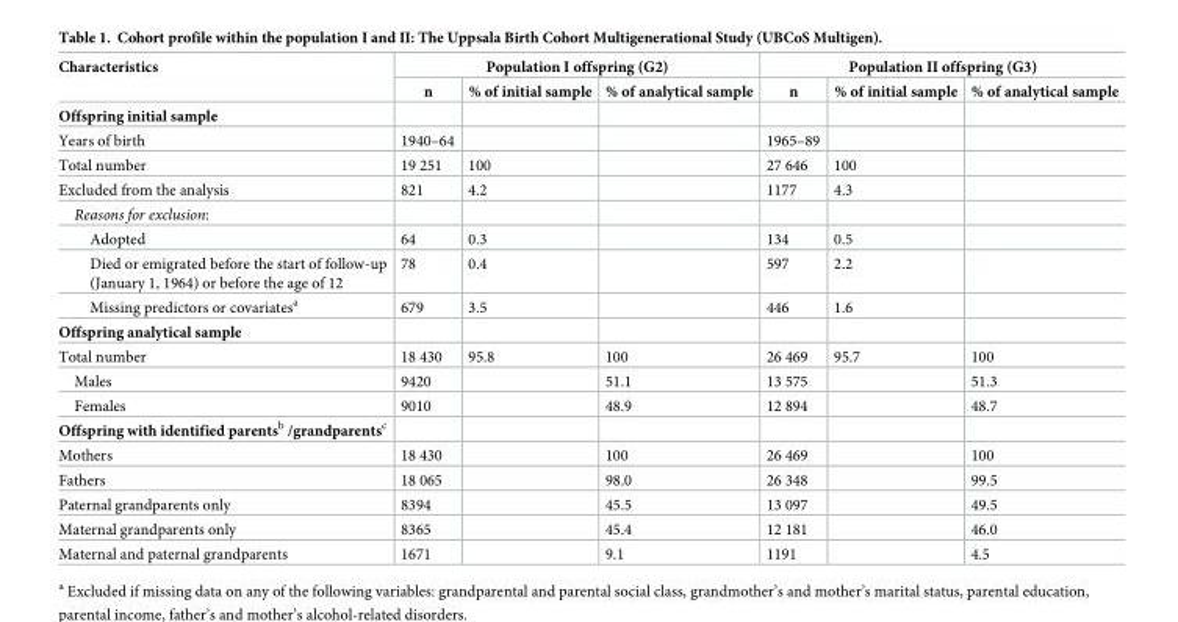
<table><thead><tr><td rowspan="2">Characteristics</td><td colspan="3">Population I offspring (G2)</td><td colspan="3">Population II offspring (G3)</td></tr><tr><td>n</td><td>% of initial sample</td><td>% of analytical sample</td><td>n</td><td>% of initial sample</td><td>% of analytical sample</td></tr></thead><tbody><tr><td colspan="7">Offspring initial sample</td></tr><tr><td>Years of birth</td><td>1940–64</td><td></td><td></td><td>1965–89</td><td></td><td></td></tr><tr><td>Total number</td><td>19 251</td><td>100</td><td></td><td>27 646</td><td>100</td><td></td></tr><tr><td>Excluded from the analysis</td><td>821</td><td>4.2</td><td></td><td>1177</td><td>4.3</td><td></td></tr><tr><td colspan="7">Reasons for exclusion:</td></tr><tr><td>Adopted</td><td>64</td><td>0.3</td><td></td><td>134</td><td>0.5</td><td></td></tr><tr><td>Died or emigrated before the start of follow-up (January 1, 1964) or before the age of 12</td><td>78</td><td>0.4</td><td></td><td>597</td><td>2.2</td><td></td></tr><tr><td>Missing predictors or covariates<sup>a</sup></td><td>679</td><td>3.5</td><td></td><td>446</td><td>1.6</td><td></td></tr><tr><td colspan="7">Offspring analytical sample</td></tr><tr><td>Total number</td><td>18 430</td><td>95.8</td><td>100</td><td>26 469</td><td>95.7</td><td>100</td></tr><tr><td>Males</td><td>9420</td><td></td><td>51.1</td><td>13 575</td><td></td><td>51.3</td></tr><tr><td>Females</td><td>9010</td><td></td><td>48.9</td><td>12 894</td><td></td><td>48.7</td></tr><tr><td colspan="7">Offspring with identified parents<sup>b</sup> /grandparents<sup>c</sup></td></tr><tr><td>Mothers</td><td>18 430</td><td></td><td>100</td><td>26 469</td><td></td><td>100</td></tr><tr><td>Fathers</td><td>18 065</td><td></td><td>98.0</td><td>26 348</td><td></td><td>99.5</td></tr><tr><td>Paternal grandparents only</td><td>8394</td><td></td><td>45.5</td><td>13 097</td><td></td><td>49.5</td></tr><tr><td>Maternal grandparents only</td><td>8365</td><td></td><td>45.4</td><td>12 181</td><td></td><td>46.0</td></tr><tr><td>Maternal and paternal grandparents</td><td>1671</td><td></td><td>9.1</td><td>1191</td><td></td><td>4.5</td></tr></tbody></table>